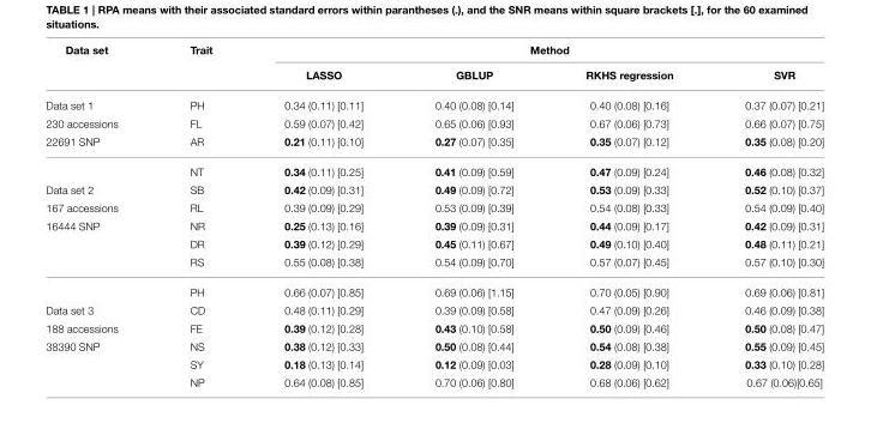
<table><thead><tr><td rowspan="2">Data set</td><td rowspan="2">Trait</td><td colspan="4">Method</td></tr><tr><td>LASSO</td><td>GBLUP</td><td>RKHS regression</td><td>SVR</td></tr></thead><tbody><tr><td>Data set 1</td><td>PH</td><td>0.34 (0.11) [0.11]</td><td>0.40 (0.08) [0.14]</td><td>0.40 (0.08) [0.16]</td><td>0.37 (0.07) [0.21]</td></tr><tr><td>230 accessions</td><td>FL</td><td>0.59 (0.07) [0.42]</td><td>0.65 (0.06) [0.93]</td><td>0.67 (0.06) [0.73]</td><td>0.66 (0.07) [0.75]</td></tr><tr><td rowspan="2">22691 SNP</td><td>AR</td><td>0.21 (0.11) [0.10]</td><td>0.27 (0.07) [0.35]</td><td>0.35 (0.07) [0.12]</td><td>0.35 (0.08) [0.20]</td></tr><tr><td>NT</td><td>0.34 (0.11) [0.25]</td><td>0.41 (0.09) [0.59]</td><td>0.47 (0.09) [0.24]</td><td>0.46 (0.08) [0.32]</td></tr><tr><td>Data set 2</td><td>SB</td><td>0.42 (0.09) [0.31]</td><td>0.49 (0.09) [0.72]</td><td>0.53 (0.09) [0.33]</td><td>0.52 (0.10) [0.37]</td></tr><tr><td>167 accessions</td><td>RL</td><td>0.39 (0.09) [0.29]</td><td>0.53 (0.09) [0.39]</td><td>0.54 (0.08) [0.33]</td><td>0.54 (0.09) [0.40]</td></tr><tr><td rowspan="4">16444 SNP</td><td>NR</td><td>0.25 (0.13) [0.16]</td><td>0.39 (0.09) [0.31]</td><td>0.44 (0.09) [0.17]</td><td>0.42 (0.09) [0.31]</td></tr><tr><td>DR</td><td>0.39 (0.12) [0.29]</td><td>0.45 (0.11) [0.67]</td><td>0.49 (0.10) [0.40]</td><td>0.48 (0.11) [0.21]</td></tr><tr><td>RS</td><td>0.55 (0.08) [0.38]</td><td>0.54 (0.09) [0.70]</td><td>0.57 (0.07) [0.45]</td><td>0.57 (0.10) [0.30]</td></tr><tr><td>PH</td><td>0.66 (0.07) [0.85]</td><td>0.69 (0.06) [1.15]</td><td>0.70 (0.05) [0.90]</td><td>0.69 (0.06) [0.81]</td></tr><tr><td>Data set 3</td><td>CD</td><td>0.48 (0.11) [0.29]</td><td>0.39 (0.09) [0.58]</td><td>0.47 (0.09) [0.26]</td><td>0.46 (0.09) [0.38]</td></tr><tr><td>188 accessions</td><td>FE</td><td>0.39 (0.12) [0.28]</td><td>0.43 (0.10) [0.58]</td><td>0.50 (0.09) [0.46]</td><td>0.50 (0.08) [0.47]</td></tr><tr><td rowspan="3">38390 SNP</td><td>NS</td><td>0.38 (0.12) [0.33]</td><td>0.50 (0.08) [0.44]</td><td>0.54 (0.08) [0.38]</td><td>0.55 (0.09) [0.45]</td></tr><tr><td>SY</td><td>0.18 (0.13) [0.14]</td><td>0.12 (0.09) [0.03]</td><td>0.28 (0.09) [0.10]</td><td>0.33 (0.10) [0.28]</td></tr><tr><td>NP</td><td>0.64 (0.08) [0.85]</td><td>0.70 (0.06) [0.80]</td><td>0.68 (0.06) [0.62]</td><td>0.67 (0.06)[0.65]</td></tr></tbody></table>